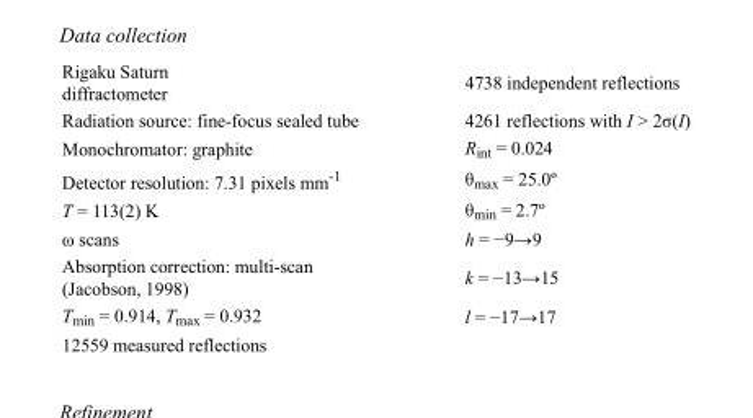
<table><tbody><tr><td>Rigaku Saturn diffractometer</td><td>4738 independent reflections</td></tr><tr><td>Radiation source: fine-focus sealed tube</td><td>4261 reflections with I &gt; 2σ(I)</td></tr><tr><td>Monochromator: graphite</td><td>R<sub>int</sub> = 0.024</td></tr><tr><td>Detector resolution: 7.31 pixels mm<sup>-1</sup></td><td>θ<sub>max</sub> = 25.0º</td></tr><tr><td>T = 113(2) K</td><td>θ<sub>min</sub> = 2.7º</td></tr><tr><td>ω scans</td><td>h = −9→9</td></tr><tr><td>Absorption correction: multi-scan (Jacobson, 1998)</td><td>k = −13→15</td></tr><tr><td>T<sub>min</sub> = 0.914, T<sub>max</sub> = 0.932</td><td>l = −17→17</td></tr><tr><td>12559 measured reflections</td><td></td></tr></tbody></table>